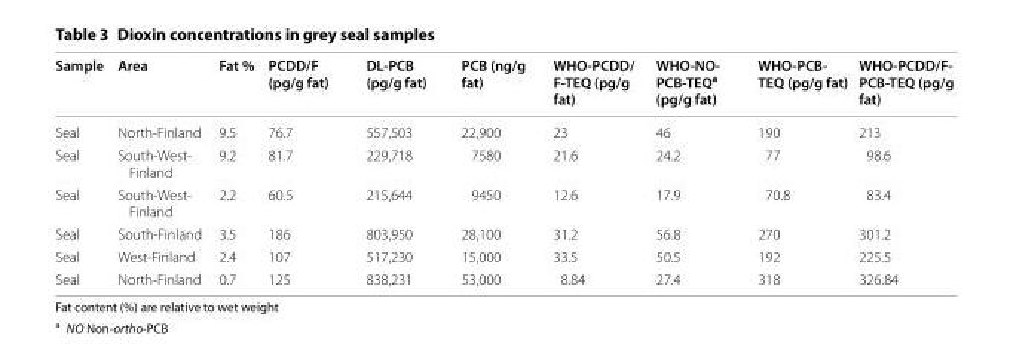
<table><thead><tr><td>Sample</td><td>Area</td><td>Fat %</td><td>PCDD/F (pg/g fat)</td><td>DL‑PCB (pg/g fat)</td><td>PCB (ng/g fat)</td><td>WHO‑PCDD/ F‑TEQ (pg/g fat)</td><td>WHO‑NO‑ PCB‑TEQ<sup>a</sup> (pg/g fat)</td><td>WHO‑PCB‑ TEQ (pg/g fat)</td><td>WHO‑PCDD/F‑ PCB‑TEQ (pg/g fat)</td></tr></thead><tbody><tr><td>Seal</td><td>North‑Finland</td><td>9.5</td><td>76.7</td><td>557,503</td><td>22,900</td><td>23</td><td>46</td><td>190</td><td>213</td></tr><tr><td>Seal</td><td>South‑West‑ Finland</td><td>9.2</td><td>81.7</td><td>229,718</td><td>7580</td><td>21.6</td><td>24.2</td><td>77</td><td>98.6</td></tr><tr><td>Seal</td><td>South‑West‑ Finland</td><td>2.2</td><td>60.5</td><td>215,644</td><td>9450</td><td>12.6</td><td>17.9</td><td>70.8</td><td>83.4</td></tr><tr><td>Seal</td><td>South‑Finland</td><td>3.5</td><td>186</td><td>803,950</td><td>28,100</td><td>31.2</td><td>56.8</td><td>270</td><td>301.2</td></tr><tr><td>Seal</td><td>West‑Finland</td><td>2.4</td><td>107</td><td>517,230</td><td>15,000</td><td>33.5</td><td>50.5</td><td>192</td><td>225.5</td></tr><tr><td>Seal</td><td>North‑Finland</td><td>0.7</td><td>125</td><td>838,231</td><td>53,000</td><td>8.84</td><td>27.4</td><td>318</td><td>326.84</td></tr></tbody></table>